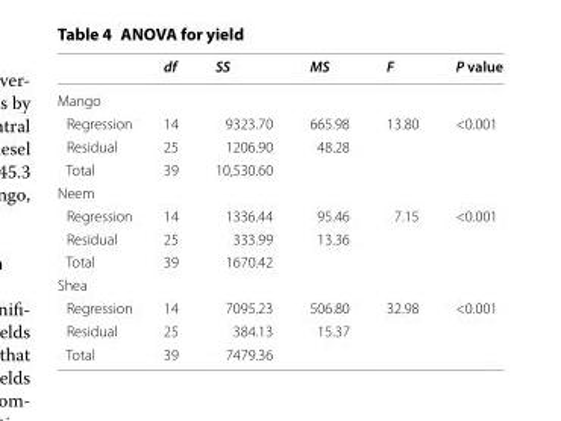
<table><thead><tr><td></td><td>df</td><td>SS</td><td>MS</td><td>F</td><td>P value</td></tr></thead><tbody><tr><td colspan="6">Mango</td></tr><tr><td>Regression</td><td>14</td><td>9323.70</td><td>665.98</td><td>13.80</td><td>&lt;0.001</td></tr><tr><td>Residual</td><td>25</td><td>1206.90</td><td>48.28</td><td></td><td></td></tr><tr><td>Total</td><td>39</td><td>10,530.60</td><td></td><td></td><td></td></tr><tr><td colspan="6">Neem</td></tr><tr><td>Regression</td><td>14</td><td>1336.44</td><td>95.46</td><td>7.15</td><td>&lt;0.001</td></tr><tr><td>Residual</td><td>25</td><td>333.99</td><td>13.36</td><td></td><td></td></tr><tr><td>Total</td><td>39</td><td>1670.42</td><td></td><td></td><td></td></tr><tr><td colspan="6">Shea</td></tr><tr><td>Regression</td><td>14</td><td>7095.23</td><td>506.80</td><td>32.98</td><td>&lt;0.001</td></tr><tr><td>Residual</td><td>25</td><td>384.13</td><td>15.37</td><td></td><td></td></tr><tr><td>Total</td><td>39</td><td>7479.36</td><td></td><td></td><td></td></tr></tbody></table>